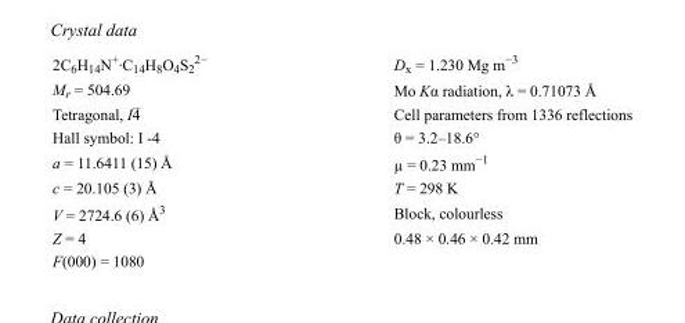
<table><tbody><tr><td>2C<sub>6</sub>H<sub>14</sub>N<sup>+</sup>·C<sub>14</sub>H<sub>8</sub>O<sub>4</sub>S<sub>2</sub> <sup>2−</sup></td><td>D<sub>x</sub> = 1.230 Mg m<sup>−3</sup></td></tr><tr><td>M<sub>r</sub> = 504.69</td><td>Mo Kα radiation, λ = 0.71073 Å</td></tr><tr><td>Tetragonal, I4</td><td>Cell parameters from 1336 reflections</td></tr><tr><td>Hall symbol: I -4</td><td>θ = 3.2–18.6°</td></tr><tr><td>a = 11.6411 (15) Å</td><td>µ = 0.23 mm<sup>−1</sup></td></tr><tr><td>c = 20.105 (3) Å</td><td>T = 298 K</td></tr><tr><td>V = 2724.6 (6) Å<sup>3</sup></td><td>Block, colourless</td></tr><tr><td>Z = 4</td><td>0.48 × 0.46 × 0.42 mm</td></tr><tr><td>F(000) = 1080</td><td></td></tr></tbody></table>